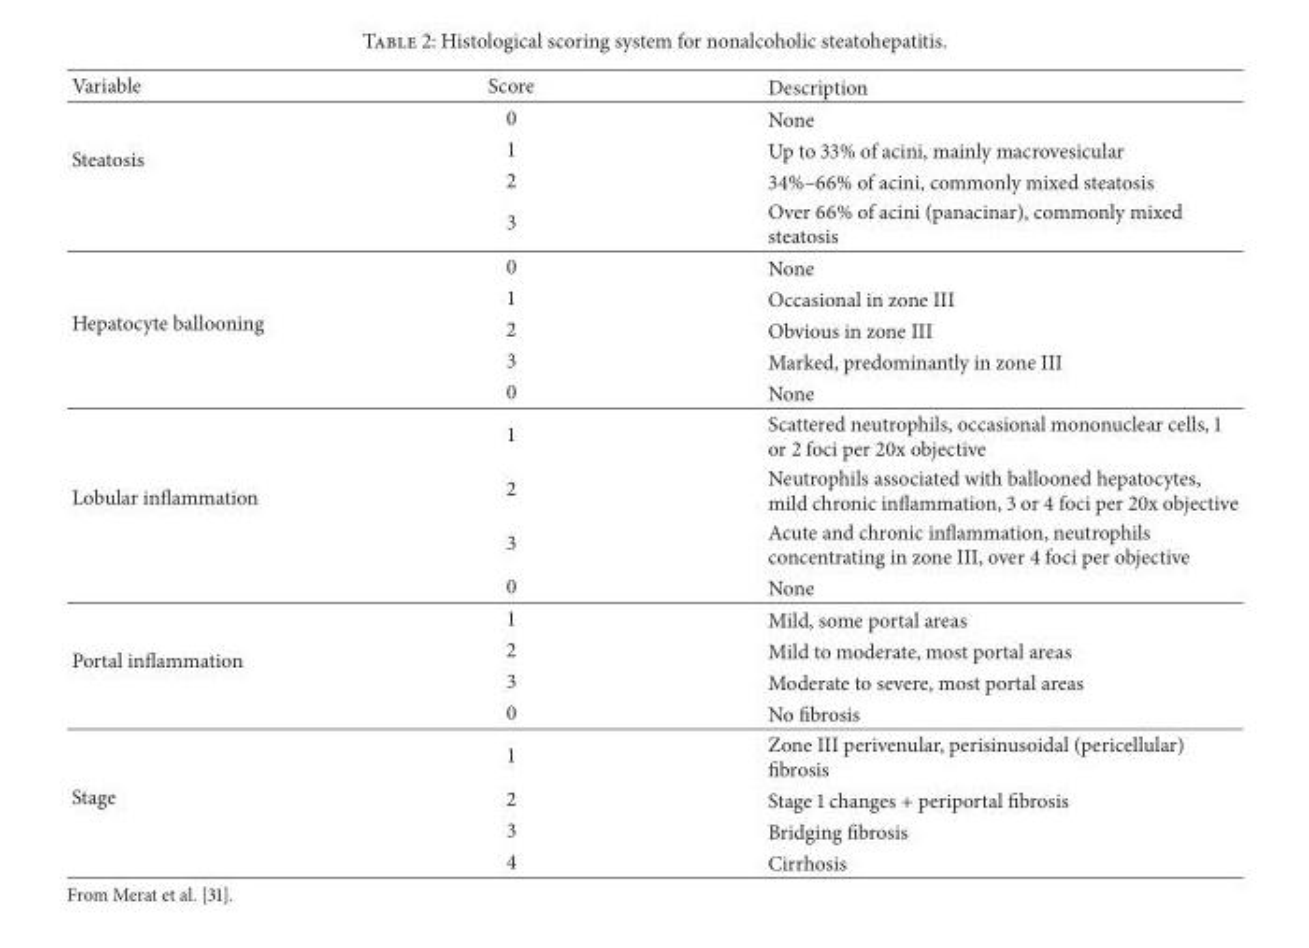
<table><thead><tr><td>Variable</td><td>Score</td><td>Description</td></tr></thead><tbody><tr><td rowspan="4">Steatosis</td><td>0</td><td>None</td></tr><tr><td>1</td><td>Up to 33% of acini, mainly macrovesicular</td></tr><tr><td>2</td><td>34%–66% of acini, commonly mixed steatosis</td></tr><tr><td>3</td><td>Over 66% of acini (panacinar), commonly mixed steatosis</td></tr><tr><td rowspan="5">Hepatocyte ballooning</td><td>0</td><td>None</td></tr><tr><td>1</td><td>Occasional in zone III</td></tr><tr><td>2</td><td>Obvious in zone III</td></tr><tr><td>3</td><td>Marked, predominantly in zone III</td></tr><tr><td>0</td><td>None</td></tr><tr><td rowspan="4">Lobular inflammation</td><td>1</td><td>Scattered neutrophils, occasional mononuclear cells, 1 or 2 foci per 20x objective</td></tr><tr><td>2</td><td>Neutrophils associated with ballooned hepatocytes, mild chronic inflammation, 3 or 4 foci per 20x objective</td></tr><tr><td>3</td><td>Acute and chronic inflammation, neutrophils concentrating in zone III, over 4 foci per objective</td></tr><tr><td>0</td><td>None</td></tr><tr><td rowspan="4">Portal inflammation</td><td>1</td><td>Mild, some portal areas</td></tr><tr><td>2</td><td>Mild to moderate, most portal areas</td></tr><tr><td>3</td><td>Moderate to severe, most portal areas</td></tr><tr><td>0</td><td>No fibrosis</td></tr><tr><td rowspan="4">Stage</td><td>1</td><td>Zone III perivenular, perisinusoidal (pericellular) fibrosis</td></tr><tr><td>2</td><td>Stage 1 changes + periportal fibrosis</td></tr><tr><td>3</td><td>Bridging fibrosis</td></tr><tr><td>4</td><td>Cirrhosis</td></tr></tbody></table>